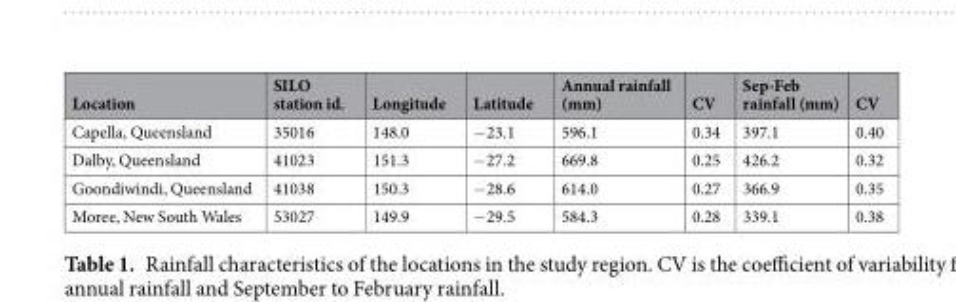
<table><thead><tr><td>Location</td><td>SILO station id.</td><td>Longitude</td><td>Latitude</td><td>Annual rainfall (mm)</td><td>CV</td><td>Sep-Feb rainfall (mm)</td><td>CV</td></tr></thead><tbody><tr><td>Capella, Queensland</td><td>35016</td><td>148.0</td><td>−23.1</td><td>596.1</td><td>0.34</td><td>397.1</td><td>0.40</td></tr><tr><td>Dalby, Queensland</td><td>41023</td><td>151.3</td><td>−27.2</td><td>669.8</td><td>0.25</td><td>426.2</td><td>0.32</td></tr><tr><td>Goondiwindi, Queensland</td><td>41038</td><td>150.3</td><td>−28.6</td><td>614.0</td><td>0.27</td><td>366.9</td><td>0.35</td></tr><tr><td>Moree, New South Wales</td><td>53027</td><td>149.9</td><td>−29.5</td><td>584.3</td><td>0.28</td><td>339.1</td><td>0.38</td></tr></tbody></table>